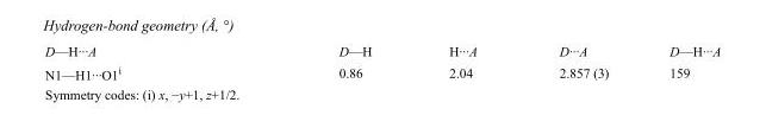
<table><tbody><tr><td>D—H···A</td><td>D—H</td><td>H···A</td><td>D···A</td><td>D—H···A</td></tr><tr><td>N1—H1···O1<sup>i</sup></td><td>0.86</td><td>2.04</td><td>2.857 (3)</td><td>159</td></tr></tbody></table>